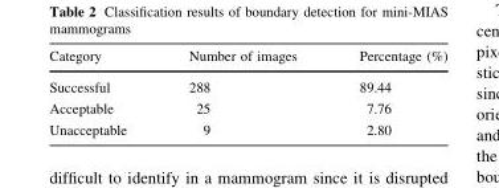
<table><thead><tr><td>Category</td><td>Number of images</td><td>Percentage (%)</td></tr></thead><tbody><tr><td>Successful</td><td>288</td><td>89.44</td></tr><tr><td>Acceptable</td><td>25</td><td>7.76</td></tr><tr><td>Unacceptable</td><td>9</td><td>2.80</td></tr></tbody></table>